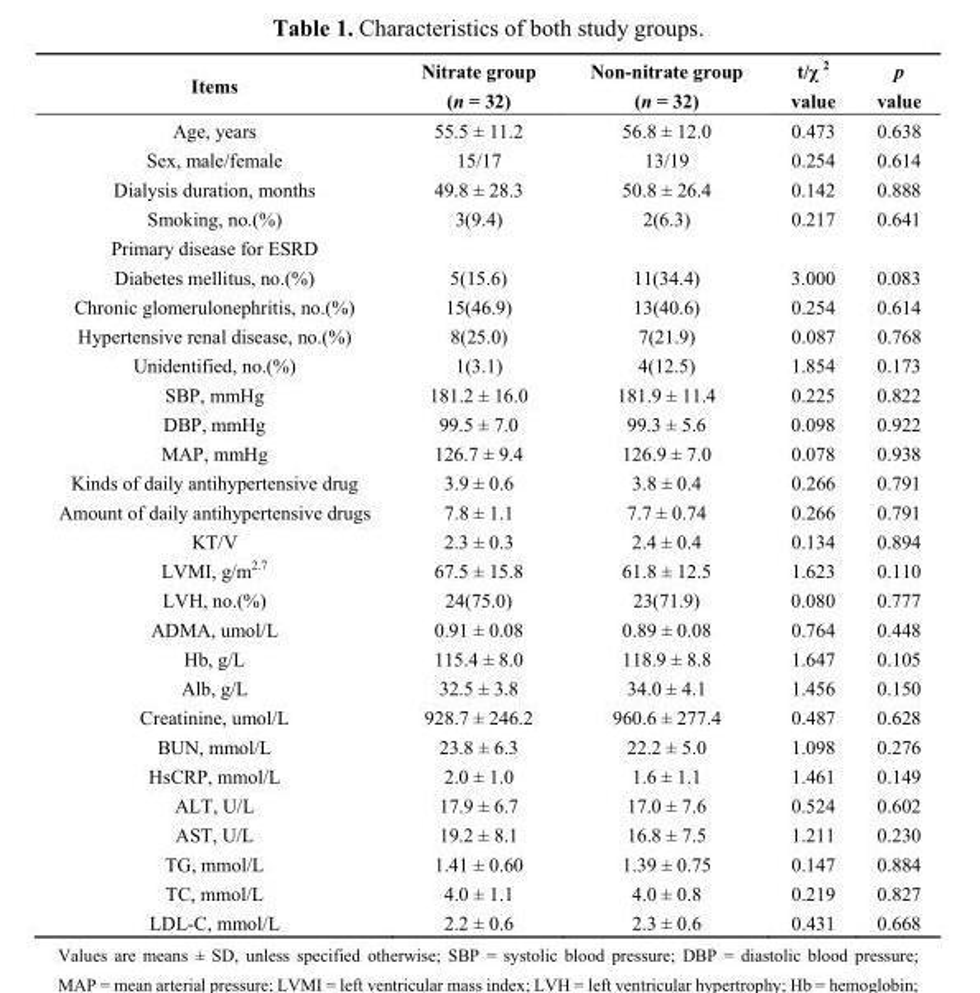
<table><thead><tr><td>Items</td><td>Nitrate group (n = 32)</td><td>Non-nitrate group (n = 32)</td><td>t/χ <sup>2</sup> value</td><td>p value</td></tr></thead><tbody><tr><td>Age, years</td><td>55.5 ± 11.2</td><td>56.8 ± 12.0</td><td>0.473</td><td>0.638</td></tr><tr><td>Sex, male/female</td><td>15/17</td><td>13/19</td><td>0.254</td><td>0.614</td></tr><tr><td>Dialysis duration, months</td><td>49.8 ± 28.3</td><td>50.8 ± 26.4</td><td>0.142</td><td>0.888</td></tr><tr><td>Smoking, no.(%)</td><td>3(9.4)</td><td>2(6.3)</td><td>0.217</td><td>0.641</td></tr><tr><td colspan="5">Primary disease for ESRD</td></tr><tr><td>Diabetes mellitus, no.(%)</td><td>5(15.6)</td><td>11(34.4)</td><td>3.000</td><td>0.083</td></tr><tr><td>Chronic glomerulonephritis, no.(%)</td><td>15(46.9)</td><td>13(40.6)</td><td>0.254</td><td>0.614</td></tr><tr><td>Hypertensive renal disease, no.(%)</td><td>8(25.0)</td><td>7(21.9)</td><td>0.087</td><td>0.768</td></tr><tr><td>Unidentified, no.(%)</td><td>1(3.1)</td><td>4(12.5)</td><td>1.854</td><td>0.173</td></tr><tr><td>SBP, mmHg</td><td>181.2 ± 16.0</td><td>181.9 ± 11.4</td><td>0.225</td><td>0.822</td></tr><tr><td>DBP, mmHg</td><td>99.5 ± 7.0</td><td>99.3 ± 5.6</td><td>0.098</td><td>0.922</td></tr><tr><td>MAP, mmHg</td><td>126.7 ± 9.4</td><td>126.9 ± 7.0</td><td>0.078</td><td>0.938</td></tr><tr><td>Kinds of daily antihypertensive drug</td><td>3.9 ± 0.6</td><td>3.8 ± 0.4</td><td>0.266</td><td>0.791</td></tr><tr><td>Amount of daily antihypertensive drugs</td><td>7.8 ± 1.1</td><td>7.7 ± 0.74</td><td>0.266</td><td>0.791</td></tr><tr><td>KT/V</td><td>2.3 ± 0.3</td><td>2.4 ± 0.4</td><td>0.134</td><td>0.894</td></tr><tr><td>LVMI, g/m<sup>2.7</sup></td><td>67.5 ± 15.8</td><td>61.8 ± 12.5</td><td>1.623</td><td>0.110</td></tr><tr><td>LVH, no.(%)</td><td>24(75.0)</td><td>23(71.9)</td><td>0.080</td><td>0.777</td></tr><tr><td>ADMA, umol/L</td><td>0.91 ± 0.08</td><td>0.89 ± 0.08</td><td>0.764</td><td>0.448</td></tr><tr><td>Hb, g/L</td><td>115.4 ± 8.0</td><td>118.9 ± 8.8</td><td>1.647</td><td>0.105</td></tr><tr><td>Alb, g/L</td><td>32.5 ± 3.8</td><td>34.0 ± 4.1</td><td>1.456</td><td>0.150</td></tr><tr><td>Creatinine, umol/L</td><td>928.7 ± 246.2</td><td>960.6 ± 277.4</td><td>0.487</td><td>0.628</td></tr><tr><td>BUN, mmol/L</td><td>23.8 ± 6.3</td><td>22.2 ± 5.0</td><td>1.098</td><td>0.276</td></tr><tr><td>HsCRP, mmol/L</td><td>2.0 ± 1.0</td><td>1.6 ± 1.1</td><td>1.461</td><td>0.149</td></tr><tr><td>ALT, U/L</td><td>17.9 ± 6.7</td><td>17.0 ± 7.6</td><td>0.524</td><td>0.602</td></tr><tr><td>AST, U/L</td><td>19.2 ± 8.1</td><td>16.8 ± 7.5</td><td>1.211</td><td>0.230</td></tr><tr><td>TG, mmol/L</td><td>1.41 ± 0.60</td><td>1.39 ± 0.75</td><td>0.147</td><td>0.884</td></tr><tr><td>TC, mmol/L</td><td>4.0 ± 1.1</td><td>4.0 ± 0.8</td><td>0.219</td><td>0.827</td></tr><tr><td>LDL-C, mmol/L</td><td>2.2 ± 0.6</td><td>2.3 ± 0.6</td><td>0.431</td><td>0.668</td></tr></tbody></table>